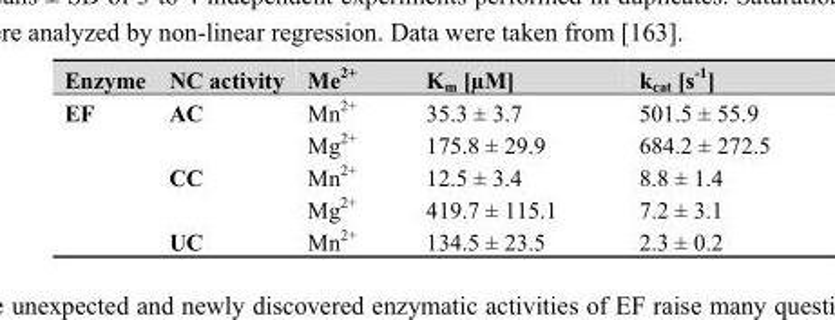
<table><thead><tr><td>Enzyme</td><td>NC activity</td><td>Me<sup>2+</sup></td><td>K<sub>m</sub> [µM]</td><td>k<sub>cat</sub> [s<sup>-1</sup>]</td></tr></thead><tbody><tr><td rowspan="5">EF</td><td rowspan="2">AC</td><td>Mn<sup>2+</sup></td><td>35.3 ± 3.7</td><td>501.5 ± 55.9</td></tr><tr><td>Mg<sup>2+</sup></td><td>175.8 ± 29.9</td><td>684.2 ± 272.5</td></tr><tr><td rowspan="2">CC</td><td>Mn<sup>2+</sup></td><td>12.5 ± 3.4</td><td>8.8 ± 1.4</td></tr><tr><td>Mg<sup>2+</sup></td><td>419.7 ± 115.1</td><td>7.2 ± 3.1</td></tr><tr><td>UC</td><td>Mn<sup>2+</sup></td><td>134.5 ± 23.5</td><td>2.3 ± 0.2</td></tr></tbody></table>